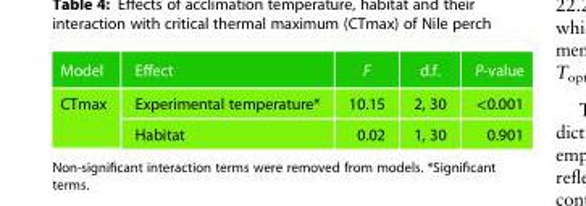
<table><thead><tr><td>Model</td><td>Effect</td><td>F</td><td>d.f.</td><td>P-value</td></tr></thead><tbody><tr><td rowspan="2">CTmax</td><td>Experimental temperature*</td><td>10.15</td><td>2, 30</td><td>&lt;0.001</td></tr><tr><td>Habitat</td><td>0.02</td><td>1, 30</td><td>0.901</td></tr></tbody></table>